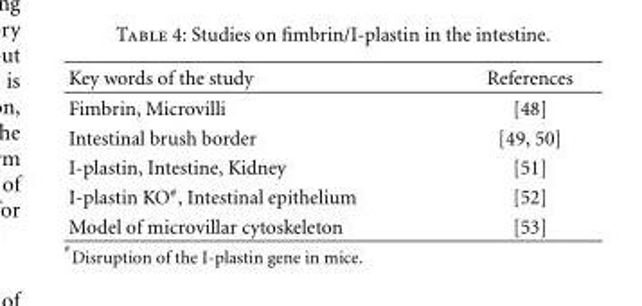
<table><thead><tr><td>Key words of the study</td><td>References</td></tr></thead><tbody><tr><td>Fimbrin, Microvilli</td><td>[48]</td></tr><tr><td>Intestinal brush border</td><td>[49, 50]</td></tr><tr><td>I-plastin, Intestine, Kidney</td><td>[51]</td></tr><tr><td>I-plastin KO<sup>#</sup>, Intestinal epithelium</td><td>[52]</td></tr><tr><td>Model of microvillar cytoskeleton</td><td>[53]</td></tr></tbody></table>